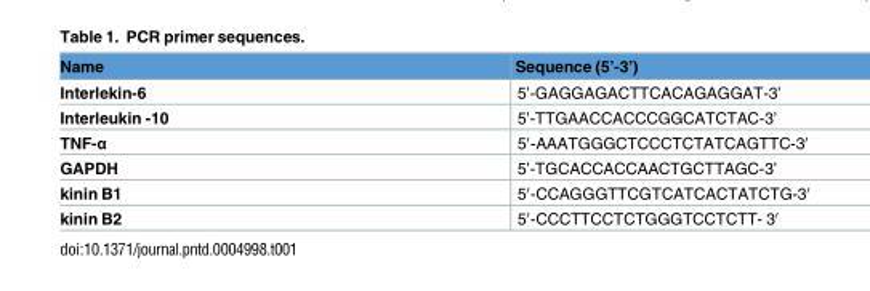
<table><thead><tr><td>Name</td><td>Sequence (5’-3’)</td></tr></thead><tbody><tr><td>Interlekin-6</td><td>5’-GAGGAGACTTCACAGAGGAT-3’</td></tr><tr><td>Interleukin -10</td><td>5’-TTGAACCACCCGGCATCTAC-3’</td></tr><tr><td>TNF-α</td><td>5′-AAATGGGCTCCCTCTATCAGTTC-3′</td></tr><tr><td>GAPDH</td><td>5’-TGCACCACCAACTGCTTAGC-3’</td></tr><tr><td>kinin B1</td><td>5′-CCAGGGTTCGTCATCACTATCTG-3′</td></tr><tr><td>kinin B2</td><td>5′-CCCTTCCTCTGGGTCCTCTT- 3′</td></tr></tbody></table>